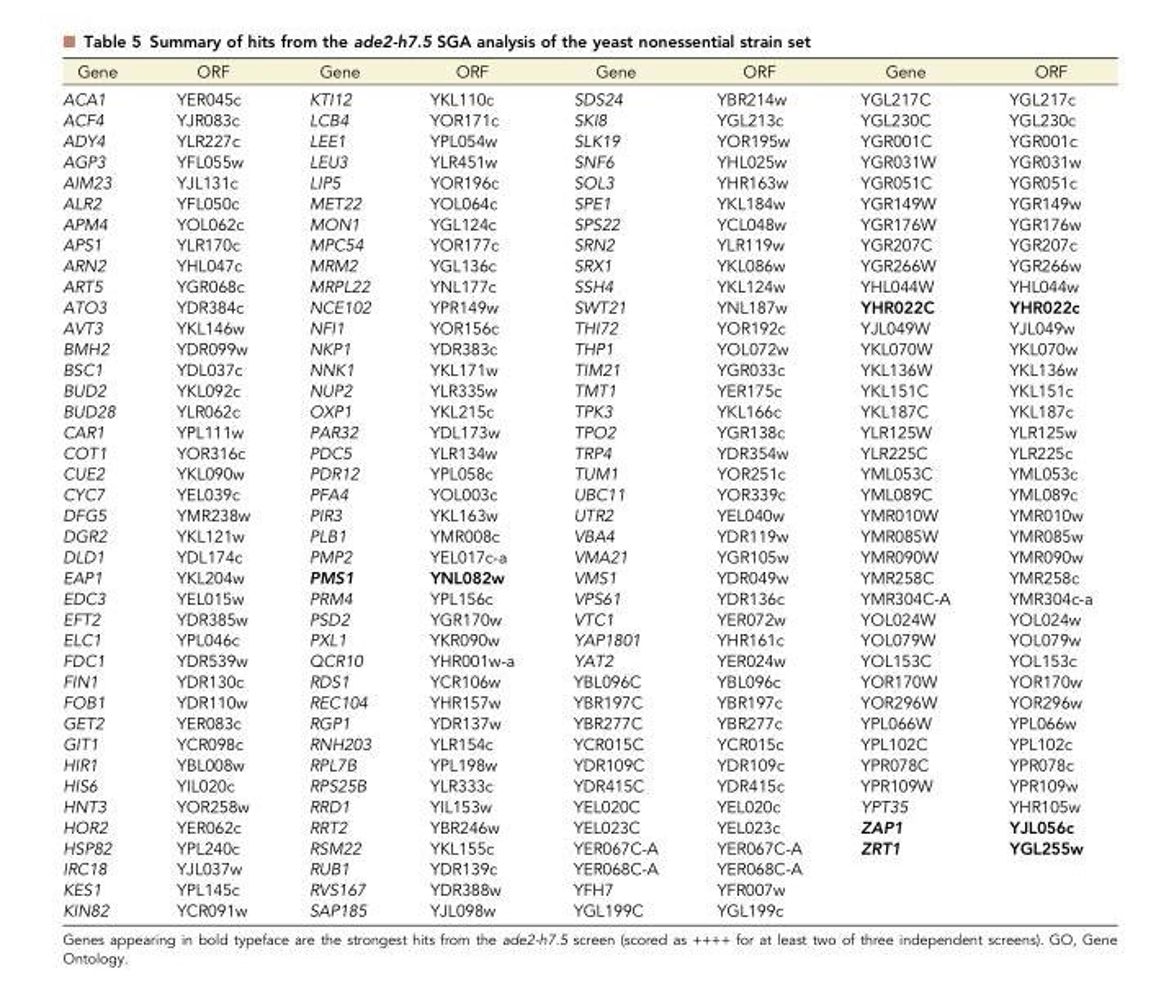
<table><thead><tr><td>Gene</td><td>ORF</td><td>Gene</td><td>ORF</td><td>Gene</td><td>ORF</td><td>Gene</td><td>ORF</td></tr></thead><tbody><tr><td>ACA1</td><td>YER045c</td><td>KTI12</td><td>YKL110c</td><td>SDS24</td><td>YBR214w</td><td>YGL217C</td><td>YGL217c</td></tr><tr><td>ACF4</td><td>YJR083c</td><td>LCB4</td><td>YOR171c</td><td>SKI8</td><td>YGL213c</td><td>YGL230C</td><td>YGL230c</td></tr><tr><td>ADY4</td><td>YLR227c</td><td>LEE1</td><td>YPL054w</td><td>SLK19</td><td>YOR195w</td><td>YGR001C</td><td>YGR001c</td></tr><tr><td>AGP3</td><td>YFL055w</td><td>LEU3</td><td>YLR451w</td><td>SNF6</td><td>YHL025w</td><td>YGR031W</td><td>YGR031w</td></tr><tr><td>AIM23</td><td>YJL131c</td><td>LIP5</td><td>YOR196c</td><td>SOL3</td><td>YHR163w</td><td>YGR051C</td><td>YGR051c</td></tr><tr><td>ALR2</td><td>YFL050c</td><td>MET22</td><td>YOL064c</td><td>SPE1</td><td>YKL184w</td><td>YGR149W</td><td>YGR149w</td></tr><tr><td>APM4</td><td>YOL062c</td><td>MON1</td><td>YGL124c</td><td>SPS22</td><td>YCL048w</td><td>YGR176W</td><td>YGR176w</td></tr><tr><td>APS1</td><td>YLR170c</td><td>MPC54</td><td>YOR177c</td><td>SRN2</td><td>YLR119w</td><td>YGR207C</td><td>YGR207c</td></tr><tr><td>ARN2</td><td>YHL047c</td><td>MRM2</td><td>YGL136c</td><td>SRX1</td><td>YKL086w</td><td>YGR266W</td><td>YGR266w</td></tr><tr><td>ART5</td><td>YGR068c</td><td>MRPL22</td><td>YNL177c</td><td>SSH4</td><td>YKL124w</td><td>YHL044W</td><td>YHL044w</td></tr><tr><td>ATO3</td><td>YDR384c</td><td>NCE102</td><td>YPR149w</td><td>SWT21</td><td>YNL187w</td><td>YHR022C</td><td>YHR022c</td></tr><tr><td>AVT3</td><td>YKL146w</td><td>NFI1</td><td>YOR156c</td><td>THI72</td><td>YOR192c</td><td>YJL049W</td><td>YJL049w</td></tr><tr><td>BMH2</td><td>YDR099w</td><td>NKP1</td><td>YDR383c</td><td>THP1</td><td>YOL072w</td><td>YKL070W</td><td>YKL070w</td></tr><tr><td>BSC1</td><td>YDL037c</td><td>NNK1</td><td>YKL171w</td><td>TIM21</td><td>YGR033c</td><td>YKL136W</td><td>YKL136w</td></tr><tr><td>BUD2</td><td>YKL092c</td><td>NUP2</td><td>YLR335w</td><td>TMT1</td><td>YER175c</td><td>YKL151C</td><td>YKL151c</td></tr><tr><td>BUD28</td><td>YLR062c</td><td>OXP1</td><td>YKL215c</td><td>TPK3</td><td>YKL166c</td><td>YKL187C</td><td>YKL187c</td></tr><tr><td>CAR1</td><td>YPL111w</td><td>PAR32</td><td>YDL173w</td><td>TPO2</td><td>YGR138c</td><td>YLR125W</td><td>YLR125w</td></tr><tr><td>COT1</td><td>YOR316c</td><td>PDC5</td><td>YLR134w</td><td>TRP4</td><td>YDR354w</td><td>YLR225C</td><td>YLR225c</td></tr><tr><td>CUE2</td><td>YKL090w</td><td>PDR12</td><td>YPL058c</td><td>TUM1</td><td>YOR251c</td><td>YML053C</td><td>YML053c</td></tr><tr><td>CYC7</td><td>YEL039c</td><td>PFA4</td><td>YOL003c</td><td>UBC11</td><td>YOR339c</td><td>YML089C</td><td>YML089c</td></tr><tr><td>DFG5</td><td>YMR238w</td><td>PIR3</td><td>YKL163w</td><td>UTR2</td><td>YEL040w</td><td>YMR010W</td><td>YMR010w</td></tr><tr><td>DGR2</td><td>YKL121w</td><td>PLB1</td><td>YMR008c</td><td>VBA4</td><td>YDR119w</td><td>YMR085W</td><td>YMR085w</td></tr><tr><td>DLD1</td><td>YDL174c</td><td>PMP2</td><td>YEL017c-a</td><td>VMA21</td><td>YGR105w</td><td>YMR090W</td><td>YMR090w</td></tr><tr><td>EAP1</td><td>YKL204w</td><td>PMS1</td><td>YNL082w</td><td>VMS1</td><td>YDR049w</td><td>YMR258C</td><td>YMR258c</td></tr><tr><td>EDC3</td><td>YEL015w</td><td>PRM4</td><td>YPL156c</td><td>VPS61</td><td>YDR136c</td><td>YMR304C-A</td><td>YMR304c-a</td></tr><tr><td>EFT2</td><td>YDR385w</td><td>PSD2</td><td>YGR170w</td><td>VTC1</td><td>YER072w</td><td>YOL024W</td><td>YOL024w</td></tr><tr><td>ELC1</td><td>YPL046c</td><td>PXL1</td><td>YKR090w</td><td>YAP1801</td><td>YHR161c</td><td>YOL079W</td><td>YOL079w</td></tr><tr><td>FDC1</td><td>YDR539w</td><td>QCR10</td><td>YHR001w-a</td><td>YAT2</td><td>YER024w</td><td>YOL153C</td><td>YOL153c</td></tr><tr><td>FIN1</td><td>YDR130c</td><td>RDS1</td><td>YCR106w</td><td>YBL096C</td><td>YBL096c</td><td>YOR170W</td><td>YOR170w</td></tr><tr><td>FOB1</td><td>YDR110w</td><td>REC104</td><td>YHR157w</td><td>YBR197C</td><td>YBR197c</td><td>YOR296W</td><td>YOR296w</td></tr><tr><td>GET2</td><td>YER083c</td><td>RGP1</td><td>YDR137w</td><td>YBR277C</td><td>YBR277c</td><td>YPL066W</td><td>YPL066w</td></tr><tr><td>GIT1</td><td>YCR098c</td><td>RNH203</td><td>YLR154c</td><td>YCR015C</td><td>YCR015c</td><td>YPL102C</td><td>YPL102c</td></tr><tr><td>HIR1</td><td>YBL008w</td><td>RPL7B</td><td>YPL198w</td><td>YDR109C</td><td>YDR109c</td><td>YPR078C</td><td>YPR078c</td></tr><tr><td>HIS6</td><td>YIL020c</td><td>RPS25B</td><td>YLR333c</td><td>YDR415C</td><td>YDR415c</td><td>YPR109W</td><td>YPR109w</td></tr><tr><td>HNT3</td><td>YOR258w</td><td>RRD1</td><td>YIL153w</td><td>YEL020C</td><td>YEL020c</td><td>YPT35</td><td>YHR105w</td></tr><tr><td>HOR2</td><td>YER062c</td><td>RRT2</td><td>YBR246w</td><td>YEL023C</td><td>YEL023c</td><td>ZAP1</td><td>YJL056c</td></tr><tr><td>HSP82</td><td>YPL240c</td><td>RSM22</td><td>YKL155c</td><td>YER067C-A</td><td>YER067C-A</td><td>ZRT1</td><td>YGL255w</td></tr><tr><td>IRC18</td><td>YJL037w</td><td>RUB1</td><td>YDR139c</td><td>YER068C-A</td><td>YER068C-A</td><td></td><td></td></tr><tr><td>KES1</td><td>YPL145c</td><td>RVS167</td><td>YDR388w</td><td>YFH7</td><td>YFR007w</td><td></td><td></td></tr><tr><td>KIN82</td><td>YCR091w</td><td>SAP185</td><td>YJL098w</td><td>YGL199C</td><td>YGL199c</td><td></td><td></td></tr></tbody></table>